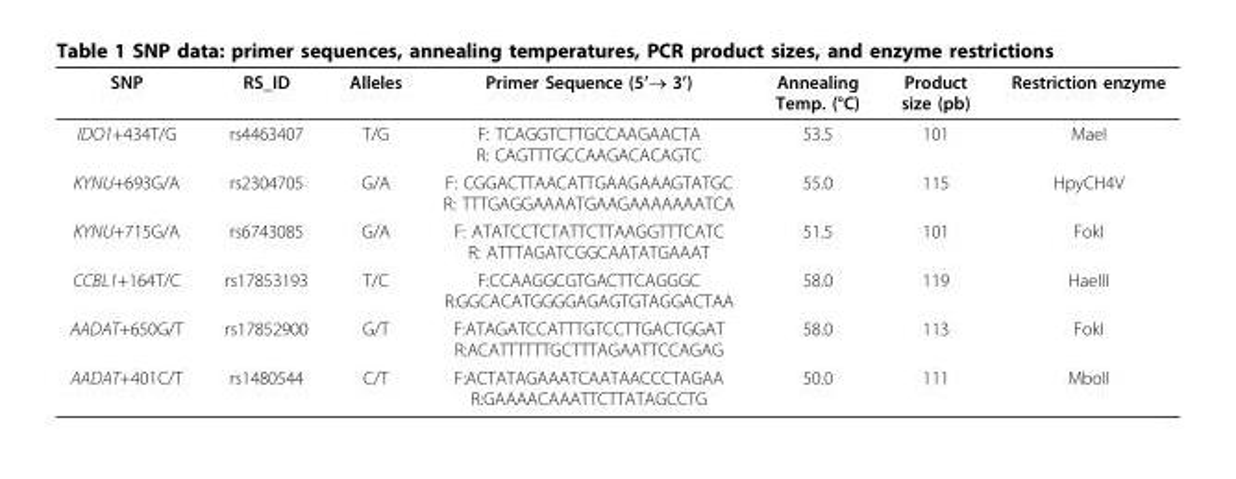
<table><thead><tr><td>SNP</td><td>RS_ID</td><td>Alleles</td><td>Primer Sequence (5’→ 3’)</td><td>Annealing Temp. (°C)</td><td>Product size (pb)</td><td>Restriction enzyme</td></tr></thead><tbody><tr><td>IDO1+434T/G</td><td>rs4463407</td><td>T/G</td><td>F: TCAGGTCTTGCCAAGAACTA R: CAGTTTGCCAAGACACAGTC</td><td>53.5</td><td>101</td><td>MaeI</td></tr><tr><td>KYNU+693G/A</td><td>rs2304705</td><td>G/A</td><td>F: CGGACTTAACATTGAAGAAAGTATGC R: TTTGAGGAAAATGAAGAAAAAAATCA</td><td>55.0</td><td>115</td><td>HpyCH4V</td></tr><tr><td>KYNU+715G/A</td><td>rs6743085</td><td>G/A</td><td>F: ATATCCTCTATTCTTAAGGTTTCATC R: ATTTAGATCGGCAATATGAAAT</td><td>51.5</td><td>101</td><td>FokI</td></tr><tr><td>CCBL1+164T/C</td><td>rs17853193</td><td>T/C</td><td>F:CCAAGGCGTGACTTCAGGGC R:GGCACATGGGGAGAGTGTAGGACTAA</td><td>58.0</td><td>119</td><td>HaeIII</td></tr><tr><td>AADAT+650G/T</td><td>rs17852900</td><td>G/T</td><td>F:ATAGATCCATTTGTCCTTGACTGGAT R:ACATTTTTTGCTTTAGAATTCCAGAG</td><td>58.0</td><td>113</td><td>FokI</td></tr><tr><td>AADAT+401C/T</td><td>rs1480544</td><td>C/T</td><td>F:ACTATAGAAATCAATAACCCTAGAA R:GAAAACAAATTCTTATAGCCTG</td><td>50.0</td><td>111</td><td>MboII</td></tr></tbody></table>